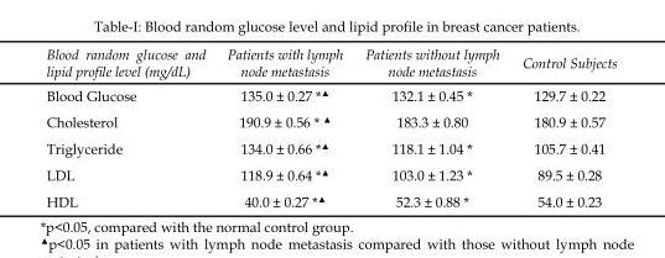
<table><thead><tr><td>Blood random glucose and lipid profile level (mg/dL)</td><td>Patients with lymph node metastasis</td><td>Patients without lymph node metastasis</td><td>Control Subjects</td></tr></thead><tbody><tr><td>Blood Glucose</td><td>135.0 ± 0.27 *<sup>▲</sup></td><td>132.1 ± 0.45 *</td><td>129.7 ± 0.22</td></tr><tr><td>Cholesterol</td><td>190.9 ± 0.56 * <sup>▲</sup></td><td>183.3 ± 0.80</td><td>180.9 ± 0.57</td></tr><tr><td>Triglyceride</td><td>134.0 ± 0.66 *<sup>▲</sup></td><td>118.1 ± 1.04 *</td><td>105.7 ± 0.41</td></tr><tr><td>LDL</td><td>118.9 ± 0.64 *<sup>▲</sup></td><td>103.0 ± 1.23 *</td><td>89.5 ± 0.28</td></tr><tr><td>HDL</td><td>40.0 ± 0.27 *<sup>▲</sup></td><td>52.3 ± 0.88 *</td><td>54.0 ± 0.23</td></tr></tbody></table>